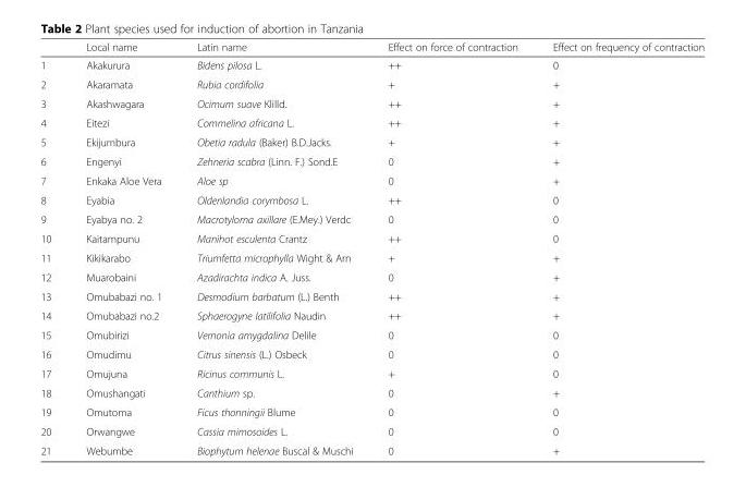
<table><thead><tr><td></td><td>Local name</td><td>Latin name</td><td>Effect on force of contraction</td><td>Effect on frequency of contraction</td></tr></thead><tbody><tr><td>1</td><td>Akakurura</td><td>Bidens pilosa L.</td><td>++</td><td>0</td></tr><tr><td>2</td><td>Akaramata</td><td>Rubia cordifolia</td><td>+</td><td>+</td></tr><tr><td>3</td><td>Akashwagara</td><td>Ocimum suave Klilld.</td><td>++</td><td>+</td></tr><tr><td>4</td><td>Eitezi</td><td>Commelina africana L.</td><td>++</td><td>+</td></tr><tr><td>5</td><td>Ekijumbura</td><td>Obetia radula (Baker) B.D.Jacks.</td><td>+</td><td>+</td></tr><tr><td>6</td><td>Engenyi</td><td>Zehneria scabra (Linn. F.) Sond.E</td><td>0</td><td>+</td></tr><tr><td>7</td><td>Enkaka Aloe Vera</td><td>Aloe sp</td><td>0</td><td>+</td></tr><tr><td>8</td><td>Eyabia</td><td>Oldenlandia corymbosa L.</td><td>++</td><td>0</td></tr><tr><td>9</td><td>Eyabya no. 2</td><td>Macrotyloma axillare (E.Mey.) Verdc</td><td>0</td><td>0</td></tr><tr><td>10</td><td>Kaitampunu</td><td>Manihot esculenta Crantz</td><td>++</td><td>0</td></tr><tr><td>11</td><td>Kikikarabo</td><td>Triumfetta microphylla Wight &amp; Arn</td><td>+</td><td>+</td></tr><tr><td>12</td><td>Muarobaini</td><td>Azadirachta indica A. Juss.</td><td>0</td><td>+</td></tr><tr><td>13</td><td>Omubabazi no. 1</td><td>Desmodium barbatum (L.) Benth</td><td>++</td><td>+</td></tr><tr><td>14</td><td>Omubabazi no.2</td><td>Sphaerogyne latilifolia Naudin</td><td>++</td><td>+</td></tr><tr><td>15</td><td>Omubirizi</td><td>Vernonia amygdalina Delile</td><td>0</td><td>0</td></tr><tr><td>16</td><td>Omudimu</td><td>Citrus sinensis (L.) Osbeck</td><td>0</td><td>0</td></tr><tr><td>17</td><td>Omujuna</td><td>Ricinus communis L.</td><td>+</td><td>0</td></tr><tr><td>18</td><td>Omushangati</td><td>Canthium sp.</td><td>0</td><td>+</td></tr><tr><td>19</td><td>Omutoma</td><td>Ficus thonningii Blume</td><td>0</td><td>0</td></tr><tr><td>20</td><td>Orwangwe</td><td>Cassia mimosoides L.</td><td>0</td><td>0</td></tr><tr><td>21</td><td>Webumbe</td><td>Biophytum helenae Buscal &amp; Muschi</td><td>0</td><td>+</td></tr></tbody></table>